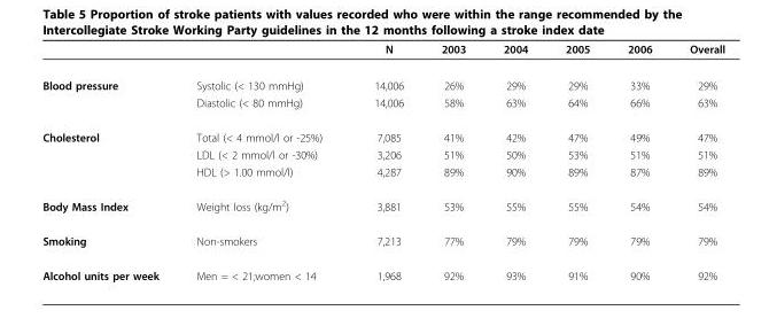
<table><thead><tr><td></td><td></td><td>N</td><td>2003</td><td>2004</td><td>2005</td><td>2006</td><td>Overall</td></tr></thead><tbody><tr><td rowspan="2">Blood pressure</td><td>Systolic (&lt; 130 mmHg)</td><td>14,006</td><td>26%</td><td>29%</td><td>29%</td><td>33%</td><td>29%</td></tr><tr><td>Diastolic (&lt; 80 mmHg)</td><td>14,006</td><td>58%</td><td>63%</td><td>64%</td><td>66%</td><td>63%</td></tr><tr><td rowspan="3">Cholesterol</td><td>Total (&lt; 4 mmol/l or -25%)</td><td>7,085</td><td>41%</td><td>42%</td><td>47%</td><td>49%</td><td>47%</td></tr><tr><td>LDL (&lt; 2 mmol/l or -30%)</td><td>3,206</td><td>51%</td><td>50%</td><td>53%</td><td>51%</td><td>51%</td></tr><tr><td>HDL (&gt; 1.00 mmol/l)</td><td>4,287</td><td>89%</td><td>90%</td><td>89%</td><td>87%</td><td>89%</td></tr><tr><td>Body Mass Index</td><td>Weight loss (kg/m<sup>2</sup>)</td><td>3,881</td><td>53%</td><td>55%</td><td>55%</td><td>54%</td><td>54%</td></tr><tr><td>Smoking</td><td>Non-smokers</td><td>7,213</td><td>77%</td><td>79%</td><td>79%</td><td>79%</td><td>79%</td></tr><tr><td>Alcohol units per week</td><td>Men = &lt; 21;women &lt; 14</td><td>1,968</td><td>92%</td><td>93%</td><td>91%</td><td>90%</td><td>92%</td></tr></tbody></table>